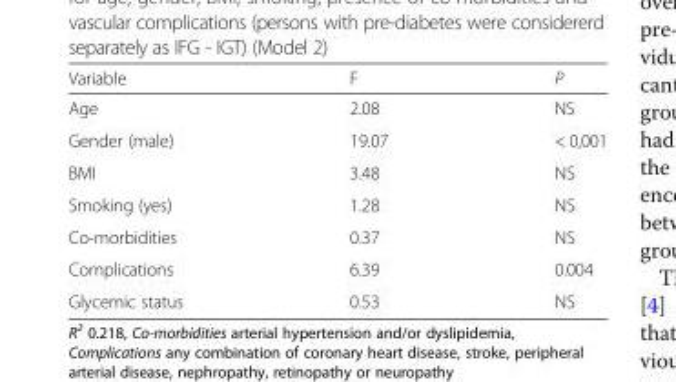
<table><thead><tr><td>Variable</td><td>F</td><td>P</td></tr></thead><tbody><tr><td>Age</td><td>2.08</td><td>NS</td></tr><tr><td>Gender (male)</td><td>19.07</td><td>&lt; 0,001</td></tr><tr><td>BMI</td><td>3.48</td><td>NS</td></tr><tr><td>Smoking (yes)</td><td>1.28</td><td>NS</td></tr><tr><td>Co-morbidities</td><td>0.37</td><td>NS</td></tr><tr><td>Complications</td><td>6.39</td><td>0.004</td></tr><tr><td>Glycemic status</td><td>0.53</td><td>NS</td></tr></tbody></table>